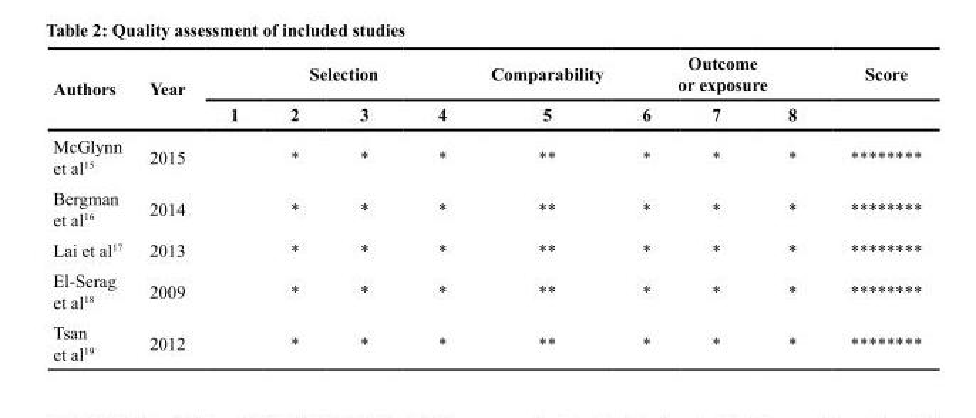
<table><thead><tr><td rowspan="2">Authors</td><td rowspan="2">Year</td><td colspan="4">Selection</td><td rowspan="2">Comparability 5</td><td colspan="3">Outcome or exposure</td><td rowspan="2">Score</td></tr><tr><td>1</td><td>2</td><td>3</td><td>4</td><td>6</td><td>7</td><td>8</td></tr></thead><tbody><tr><td>McGlynn et al<sup>15</sup></td><td>2015</td><td></td><td>*</td><td>*</td><td>*</td><td>**</td><td>*</td><td>*</td><td>*</td><td>********</td></tr><tr><td>Bergman et al<sup>16</sup></td><td>2014</td><td></td><td>*</td><td>*</td><td>*</td><td>**</td><td>*</td><td>*</td><td>*</td><td>********</td></tr><tr><td>Lai et al<sup>17</sup></td><td>2013</td><td></td><td>*</td><td>*</td><td>*</td><td>**</td><td>*</td><td>*</td><td>*</td><td>********</td></tr><tr><td>El-Serag et al<sup>18</sup></td><td>2009</td><td></td><td>*</td><td>*</td><td>*</td><td>**</td><td>*</td><td>*</td><td>*</td><td>********</td></tr><tr><td>Tsan et al<sup>19</sup></td><td>2012</td><td></td><td>*</td><td>*</td><td>*</td><td>**</td><td>*</td><td>*</td><td>*</td><td>********</td></tr></tbody></table>